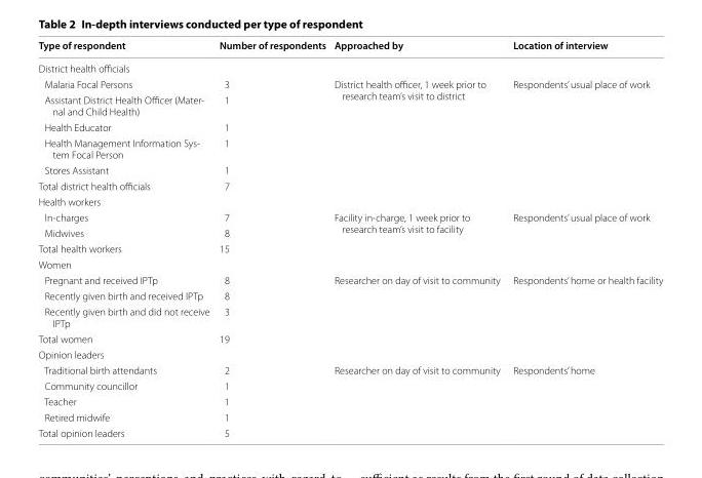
<table><thead><tr><td>Type of respondent</td><td>Number of respondents</td><td>Approached by</td><td>Location of interview</td></tr></thead><tbody><tr><td colspan="4">District health officials</td></tr><tr><td>Malaria Focal Persons</td><td>3</td><td rowspan="6">District health officer, 1 week prior to research team’s visit to district</td><td rowspan="6">Respondents’ usual place of work</td></tr><tr><td>Assistant District Health Officer (Mater- nal and Child Health)</td><td>1</td></tr><tr><td>Health Educator</td><td>1</td></tr><tr><td>Health Management Information Sys- tem Focal Person</td><td>1</td></tr><tr><td>Stores Assistant</td><td>1</td></tr><tr><td>Total district health officials</td><td>7</td></tr><tr><td colspan="4">Health workers</td></tr><tr><td>In-charges</td><td>7</td><td rowspan="3">Facility in-charge, 1 week prior to research team’s visit to facility</td><td rowspan="3">Respondents’ usual place of work</td></tr><tr><td>Midwives</td><td>8</td></tr><tr><td>Total health workers</td><td>15</td></tr><tr><td colspan="4">Women</td></tr><tr><td>Pregnant and received IPTp</td><td>8</td><td rowspan="4">Researcher on day of visit to community</td><td rowspan="4">Respondents’ home or health facility</td></tr><tr><td>Recently given birth and received IPTp</td><td>8</td></tr><tr><td>Recently given birth and did not receive IPTp</td><td>3</td></tr><tr><td>Total women</td><td>19</td></tr><tr><td colspan="4">Opinion leaders</td></tr><tr><td>Traditional birth attendants</td><td>2</td><td rowspan="5">Researcher on day of visit to community</td><td rowspan="5">Respondents’ home</td></tr><tr><td>Community councillor</td><td>1</td></tr><tr><td>Teacher</td><td>1</td></tr><tr><td>Retired midwife</td><td>1</td></tr><tr><td>Total opinion leaders</td><td>5</td></tr></tbody></table>